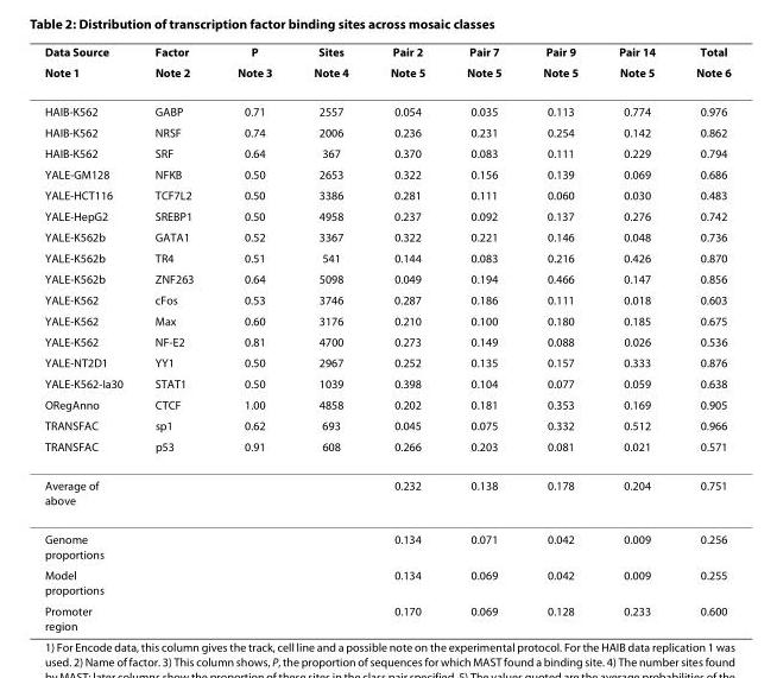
<table><thead><tr><td rowspan="2">Data Source Note 1</td><td rowspan="2">Factor Note 2</td><td rowspan="2">P Note 3</td><td rowspan="2">Sites Note 4</td><td rowspan="2">Pair 2 Note 5</td><td rowspan="2">Pair 7 Note 5</td><td rowspan="2">Pair 9 Note 5</td><td rowspan="2">Pair 14 Note 5</td><td rowspan="2">Total Note 6</td></tr><tr></tr></thead><tbody><tr><td>HAIB-K562</td><td>GABP</td><td>0.71</td><td>2557</td><td>0.054</td><td>0.035</td><td>0.113</td><td>0.774</td><td>0.976</td></tr><tr><td>HAIB-K562</td><td>NRSF</td><td>0.74</td><td>2006</td><td>0.236</td><td>0.231</td><td>0.254</td><td>0.142</td><td>0.862</td></tr><tr><td>HAIB-K562</td><td>SRF</td><td>0.64</td><td>367</td><td>0.370</td><td>0.083</td><td>0.111</td><td>0.229</td><td>0.794</td></tr><tr><td>YALE-GM128</td><td>NFKB</td><td>0.50</td><td>2653</td><td>0.322</td><td>0.156</td><td>0.139</td><td>0.069</td><td>0.686</td></tr><tr><td>YALE-HCT116</td><td>TCF7L2</td><td>0.50</td><td>3386</td><td>0.281</td><td>0.111</td><td>0.060</td><td>0.030</td><td>0.483</td></tr><tr><td>YALE-HepG2</td><td>SREBP1</td><td>0.50</td><td>4958</td><td>0.237</td><td>0.092</td><td>0.137</td><td>0.276</td><td>0.742</td></tr><tr><td>YALE-K562b</td><td>GATA1</td><td>0.52</td><td>3367</td><td>0.322</td><td>0.221</td><td>0.146</td><td>0.048</td><td>0.736</td></tr><tr><td>YALE-K562b</td><td>TR4</td><td>0.51</td><td>541</td><td>0.144</td><td>0.083</td><td>0.216</td><td>0.426</td><td>0.870</td></tr><tr><td>YALE-K562b</td><td>ZNF263</td><td>0.64</td><td>5098</td><td>0.049</td><td>0.194</td><td>0.466</td><td>0.147</td><td>0.856</td></tr><tr><td>YALE-K562</td><td>cFos</td><td>0.53</td><td>3746</td><td>0.287</td><td>0.186</td><td>0.111</td><td>0.018</td><td>0.603</td></tr><tr><td>YALE-K562</td><td>Max</td><td>0.60</td><td>3176</td><td>0.210</td><td>0.100</td><td>0.180</td><td>0.185</td><td>0.675</td></tr><tr><td>YALE-K562</td><td>NF-E2</td><td>0.81</td><td>4700</td><td>0.273</td><td>0.149</td><td>0.088</td><td>0.026</td><td>0.536</td></tr><tr><td>YALE-NT2D1</td><td>YY1</td><td>0.50</td><td>2967</td><td>0.252</td><td>0.135</td><td>0.157</td><td>0.333</td><td>0.876</td></tr><tr><td>YALE-K562-Ia30</td><td>STAT1</td><td>0.50</td><td>1039</td><td>0.398</td><td>0.104</td><td>0.077</td><td>0.059</td><td>0.638</td></tr><tr><td>ORegAnno</td><td>CTCF</td><td>1.00</td><td>4858</td><td>0.202</td><td>0.181</td><td>0.353</td><td>0.169</td><td>0.905</td></tr><tr><td>TRANSFAC</td><td>sp1</td><td>0.62</td><td>693</td><td>0.045</td><td>0.075</td><td>0.332</td><td>0.512</td><td>0.966</td></tr><tr><td>TRANSFAC</td><td>p53</td><td>0.91</td><td>608</td><td>0.266</td><td>0.203</td><td>0.081</td><td>0.021</td><td>0.571</td></tr><tr><td>Average of above</td><td></td><td></td><td></td><td>0.232</td><td>0.138</td><td>0.178</td><td>0.204</td><td>0.751</td></tr><tr><td>Genome proportions</td><td></td><td></td><td></td><td>0.134</td><td>0.071</td><td>0.042</td><td>0.009</td><td>0.256</td></tr><tr><td>Model proportions</td><td></td><td></td><td></td><td>0.134</td><td>0.069</td><td>0.042</td><td>0.009</td><td>0.255</td></tr><tr><td>Promoter region</td><td></td><td></td><td></td><td>0.170</td><td>0.069</td><td>0.128</td><td>0.233</td><td>0.600</td></tr></tbody></table>